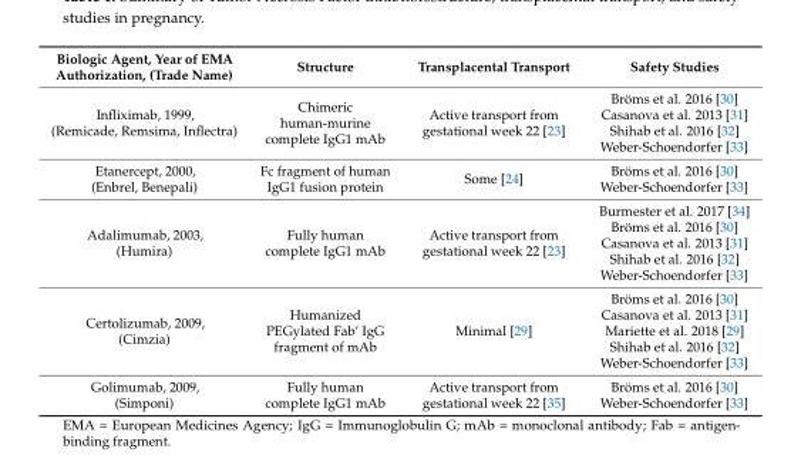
<table><thead><tr><td>Biologic Agent, Year of EMA Authorization, (Trade Name)</td><td>Structure</td><td>Transplacental Transport</td><td>Safety Studies</td></tr></thead><tbody><tr><td>Infliximab, 1999, (Remicade, Remsima, Inflectra)</td><td>Chimeric human-murine complete IgG1 mAb</td><td>Active transport from gestational week 22 [23]</td><td>Bröms et al. 2016 [30] Casanova et al. 2013 [31] Shihab et al. 2016 [32] Weber-Schoendorfer [33]</td></tr><tr><td>Etanercept, 2000, (Enbrel, Benepali)</td><td>Fc fragment of human IgG1 fusion protein</td><td>Some [24]</td><td>Bröms et al. 2016 [30] Weber-Schoendorfer [33]</td></tr><tr><td>Adalimumab, 2003, (Humira)</td><td>Fully human complete IgG1 mAb</td><td>Active transport from gestational week 22 [23]</td><td>Burmester et al. 2017 [34] Bröms et al. 2016 [30] Casanova et al. 2013 [31] Shihab et al. 2016 [32] Weber-Schoendorfer [33]</td></tr><tr><td>Certolizumab, 2009, (Cimzia)</td><td>Humanized PEGylated Fab’ IgG fragment of mAb</td><td>Minimal [29]</td><td>Bröms et al. 2016 [30] Casanova et al. 2013 [31] Mariette et al. 2018 [29] Shihab et al. 2016 [32] Weber-Schoendorfer [33]</td></tr><tr><td>Golimumab, 2009, (Simponi)</td><td>Fully human complete IgG1 mAb</td><td>Active transport from gestational week 22 [35]</td><td>Bröms et al. 2016 [30] Weber-Schoendorfer [33]</td></tr></tbody></table>